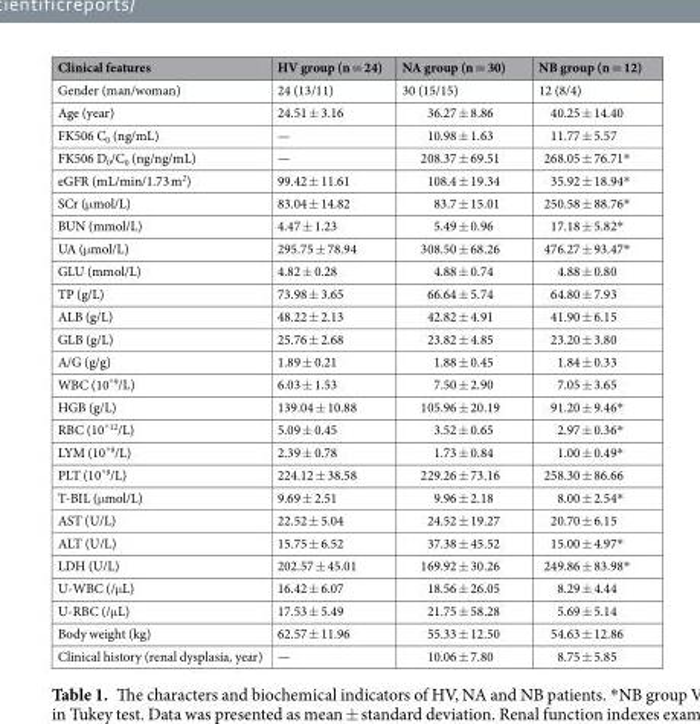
<table><thead><tr><td>Clinical features</td><td>HV group (n = 24)</td><td>NA group (n = 30)</td><td>NB group (n = 12)</td></tr></thead><tbody><tr><td>Gender (man/woman)</td><td>24 (13/11)</td><td>30 (15/15)</td><td>12 (8/4)</td></tr><tr><td>Age (year)</td><td>24.51 ± 3.16</td><td>36.27 ± 8.86</td><td>40.25 ± 14.40</td></tr><tr><td>FK506 C<sub>0</sub> (ng/mL)</td><td>—</td><td>10.98 ± 1.63</td><td>11.77 ± 5.57</td></tr><tr><td>FK506 D<sub>0</sub>/C<sub>0</sub> (ng/ng/mL)</td><td>—</td><td>208.37 ± 69.51</td><td>268.05 ± 76.71*</td></tr><tr><td>eGFR (mL/min/1.73 m<sup>2</sup>)</td><td>99.42 ± 11.61</td><td>108.4 ± 19.34</td><td>35.92 ± 18.94*</td></tr><tr><td>SCr (μmol/L)</td><td>83.04 ± 14.82</td><td>83.7 ± 15.01</td><td>250.58 ± 88.76*</td></tr><tr><td>BUN (mmol/L)</td><td>4.47 ± 1.23</td><td>5.49 ± 0.96</td><td>17.18 ± 5.82*</td></tr><tr><td>UA (μmol/L)</td><td>295.75 ± 78.94</td><td>308.50 ± 68.26</td><td>476.27 ± 93.47*</td></tr><tr><td>GLU (mmol/L)</td><td>4.82 ± 0.28</td><td>4.88 ± 0.74</td><td>4.88 ± 0.80</td></tr><tr><td>TP (g/L)</td><td>73.98 ± 3.65</td><td>66.64 ± 5.74</td><td>64.80 ± 7.93</td></tr><tr><td>ALB (g/L)</td><td>48.22 ± 2.13</td><td>42.82 ± 4.91</td><td>41.90 ± 6.15</td></tr><tr><td>GLB (g/L)</td><td>25.76 ± 2.68</td><td>23.82 ± 4.85</td><td>23.20 ± 3.80</td></tr><tr><td>A/G (g/g)</td><td>1.89 ± 0.21</td><td>1.88 ± 0.45</td><td>1.84 ± 0.33</td></tr><tr><td>WBC (10^9/L)</td><td>6.03 ± 1.53</td><td>7.50 ± 2.90</td><td>7.05 ± 3.65</td></tr><tr><td>HGB (g/L)</td><td>139.04 ± 10.88</td><td>105.96 ± 20.19</td><td>91.20 ± 9.46*</td></tr><tr><td>RBC (10^12/L)</td><td>5.09 ± 0.45</td><td>3.52 ± 0.65</td><td>2.97 ± 0.36*</td></tr><tr><td>LYM (10^9/L)</td><td>2.39 ± 0.78</td><td>1.73 ± 0.84</td><td>1.00 ± 0.49*</td></tr><tr><td>PLT (10^9/L)</td><td>224.12 ± 38.58</td><td>229.26 ± 73.16</td><td>258.30 ± 86.66</td></tr><tr><td>T-BIL (μmol/L)</td><td>9.69 ± 2.51</td><td>9.96 ± 2.18</td><td>8.00 ± 2.54*</td></tr><tr><td>AST (U/L)</td><td>22.52 ± 5.04</td><td>24.52 ± 19.27</td><td>20.70 ± 6.15</td></tr><tr><td>ALT (U/L)</td><td>15.75 ± 6.52</td><td>37.38 ± 45.52</td><td>15.00 ± 4.97*</td></tr><tr><td>LDH (U/L)</td><td>202.57 ± 45.01</td><td>169.92 ± 30.26</td><td>249.86 ± 83.98*</td></tr><tr><td>U-WBC (/μL)</td><td>16.42 ± 6.07</td><td>18.56 ± 26.05</td><td>8.29 ± 4.44</td></tr><tr><td>U-RBC (/μL)</td><td>17.53 ± 5.49</td><td>21.75 ± 58.28</td><td>5.69 ± 5.14</td></tr><tr><td>Body weight (kg)</td><td>62.57 ± 11.96</td><td>55.33 ± 12.50</td><td>54.63 ± 12.86</td></tr><tr><td>Clinical history (renal dysplasia, year)</td><td>—</td><td>10.06 ± 7.80</td><td>8.75 ± 5.85</td></tr></tbody></table>